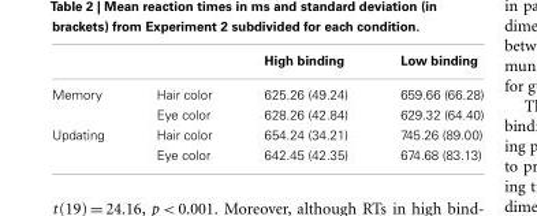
<table><thead><tr><td></td><td></td><td>High binding</td><td>Low binding</td></tr></thead><tbody><tr><td rowspan="2">Memory</td><td>Hair color</td><td>625.26 (49.24)</td><td>659.66 (66.28)</td></tr><tr><td>Eye color</td><td>628.26 (42.84)</td><td>629.32 (64.40)</td></tr><tr><td rowspan="2">Updating</td><td>Hair color</td><td>654.24 (34.21)</td><td>745.26 (89.00)</td></tr><tr><td>Eye color</td><td>642.45 (42.35)</td><td>674.68 (83.13)</td></tr></tbody></table>